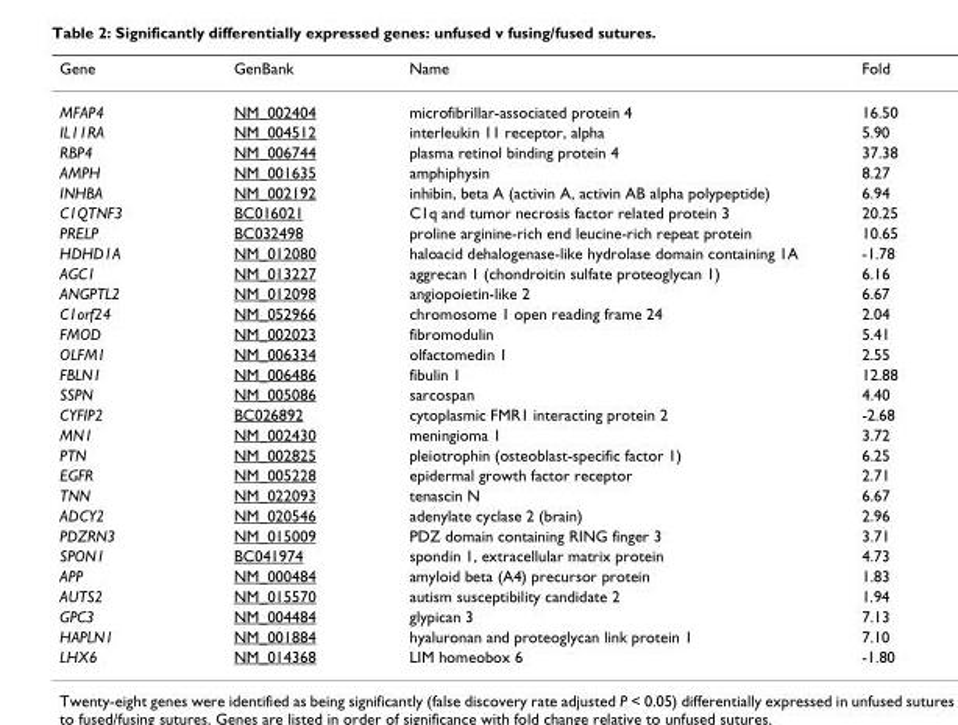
<table><thead><tr><td>Gene</td><td>GenBank</td><td>Name</td><td>Fold</td></tr></thead><tbody><tr><td>MFAP4</td><td>NM_002404</td><td>microfibrillar-associated protein 4</td><td>16.50</td></tr><tr><td>IL11RA</td><td>NM_004512</td><td>interleukin 11 receptor, alpha</td><td>5.90</td></tr><tr><td>RBP4</td><td>NM_006744</td><td>plasma retinol binding protein 4</td><td>37.38</td></tr><tr><td>AMPH</td><td>NM_001635</td><td>amphiphysin</td><td>8.27</td></tr><tr><td>INHBA</td><td>NM_002192</td><td>inhibin, beta A (activin A, activin AB alpha polypeptide)</td><td>6.94</td></tr><tr><td>C1QTNF3</td><td>BC016021</td><td>C1q and tumor necrosis factor related protein 3</td><td>20.25</td></tr><tr><td>PRELP</td><td>BC032498</td><td>proline arginine-rich end leucine-rich repeat protein</td><td>10.65</td></tr><tr><td>HDHD1A</td><td>NM_012080</td><td>haloacid dehalogenase-like hydrolase domain containing 1A</td><td>-1.78</td></tr><tr><td>AGC1</td><td>NM_013227</td><td>aggrecan 1 (chondroitin sulfate proteoglycan 1)</td><td>6.16</td></tr><tr><td>ANGPTL2</td><td>NM_012098</td><td>angiopoietin-like 2</td><td>6.67</td></tr><tr><td>C1orf24</td><td>NM_052966</td><td>chromosome 1 open reading frame 24</td><td>2.04</td></tr><tr><td>FMOD</td><td>NM_002023</td><td>fibromodulin</td><td>5.41</td></tr><tr><td>OLFM1</td><td>NM_006334</td><td>olfactomedin 1</td><td>2.55</td></tr><tr><td>FBLN1</td><td>NM_006486</td><td>fibulin 1</td><td>12.88</td></tr><tr><td>SSPN</td><td>NM_005086</td><td>sarcospan</td><td>4.40</td></tr><tr><td>CYFIP2</td><td>BC026892</td><td>cytoplasmic FMR1 interacting protein 2</td><td>-2.68</td></tr><tr><td>MN1</td><td>NM_002430</td><td>meningioma 1</td><td>3.72</td></tr><tr><td>PTN</td><td>NM_002825</td><td>pleiotrophin (osteoblast-specific factor 1)</td><td>6.25</td></tr><tr><td>EGFR</td><td>NM_005228</td><td>epidermal growth factor receptor</td><td>2.71</td></tr><tr><td>TNN</td><td>NM_022093</td><td>tenascin N</td><td>6.67</td></tr><tr><td>ADCY2</td><td>NM_020546</td><td>adenylate cyclase 2 (brain)</td><td>2.96</td></tr><tr><td>PDZRN3</td><td>NM_015009</td><td>PDZ domain containing RING finger 3</td><td>3.71</td></tr><tr><td>SPON1</td><td>BC041974</td><td>spondin 1, extracellular matrix protein</td><td>4.73</td></tr><tr><td>APP</td><td>NM_000484</td><td>amyloid beta (A4) precursor protein</td><td>1.83</td></tr><tr><td>AUTS2</td><td>NM_015570</td><td>autism susceptibility candidate 2</td><td>1.94</td></tr><tr><td>GPC3</td><td>NM_004484</td><td>glypican 3</td><td>7.13</td></tr><tr><td>HAPLN1</td><td>NM_001884</td><td>hyaluronan and proteoglycan link protein 1</td><td>7.10</td></tr><tr><td>LHX6</td><td>NM_014368</td><td>LIM homeobox 6</td><td>-1.80</td></tr></tbody></table>